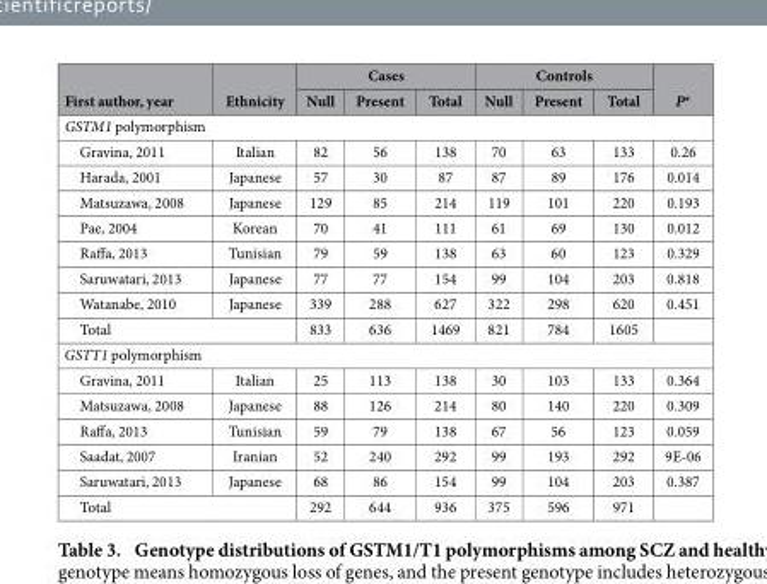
<table><thead><tr><td rowspan="2">First author, year</td><td rowspan="2">Ethnicity</td><td colspan="3">Cases</td><td colspan="3">Controls</td><td rowspan="2">P*</td></tr><tr><td>Null</td><td>Present</td><td>Total</td><td>Null</td><td>Present</td><td>Total</td></tr></thead><tbody><tr><td colspan="9">GSTM1 polymorphism</td></tr><tr><td>Gravina, 2011</td><td>Italian</td><td>82</td><td>56</td><td>138</td><td>70</td><td>63</td><td>133</td><td>0.26</td></tr><tr><td>Harada, 2001</td><td>Japanese</td><td>57</td><td>30</td><td>87</td><td>87</td><td>89</td><td>176</td><td>0.014</td></tr><tr><td>Matsuzawa, 2008</td><td>Japanese</td><td>129</td><td>85</td><td>214</td><td>119</td><td>101</td><td>220</td><td>0.193</td></tr><tr><td>Pae, 2004</td><td>Korean</td><td>70</td><td>41</td><td>111</td><td>61</td><td>69</td><td>130</td><td>0.012</td></tr><tr><td>Raffa, 2013</td><td>Tunisian</td><td>79</td><td>59</td><td>138</td><td>63</td><td>60</td><td>123</td><td>0.329</td></tr><tr><td>Saruwatari, 2013</td><td>Japanese</td><td>77</td><td>77</td><td>154</td><td>99</td><td>104</td><td>203</td><td>0.818</td></tr><tr><td>Watanabe, 2010</td><td>Japanese</td><td>339</td><td>288</td><td>627</td><td>322</td><td>298</td><td>620</td><td>0.451</td></tr><tr><td colspan="2">Total</td><td>833</td><td>636</td><td>1469</td><td>821</td><td>784</td><td>1605</td><td></td></tr><tr><td colspan="9">GSTT1 polymorphism</td></tr><tr><td>Gravina, 2011</td><td>Italian</td><td>25</td><td>113</td><td>138</td><td>30</td><td>103</td><td>133</td><td>0.364</td></tr><tr><td>Matsuzawa, 2008</td><td>Japanese</td><td>88</td><td>126</td><td>214</td><td>80</td><td>140</td><td>220</td><td>0.309</td></tr><tr><td>Raffa, 2013</td><td>Tunisian</td><td>59</td><td>79</td><td>138</td><td>67</td><td>56</td><td>123</td><td>0.059</td></tr><tr><td>Saadat, 2007</td><td>Iranian</td><td>52</td><td>240</td><td>292</td><td>99</td><td>193</td><td>292</td><td>9E-06</td></tr><tr><td>Saruwatari, 2013</td><td>Japanese</td><td>68</td><td>86</td><td>154</td><td>99</td><td>104</td><td>203</td><td>0.387</td></tr><tr><td colspan="2">Total</td><td>292</td><td>644</td><td>936</td><td>375</td><td>596</td><td>971</td><td></td></tr></tbody></table>